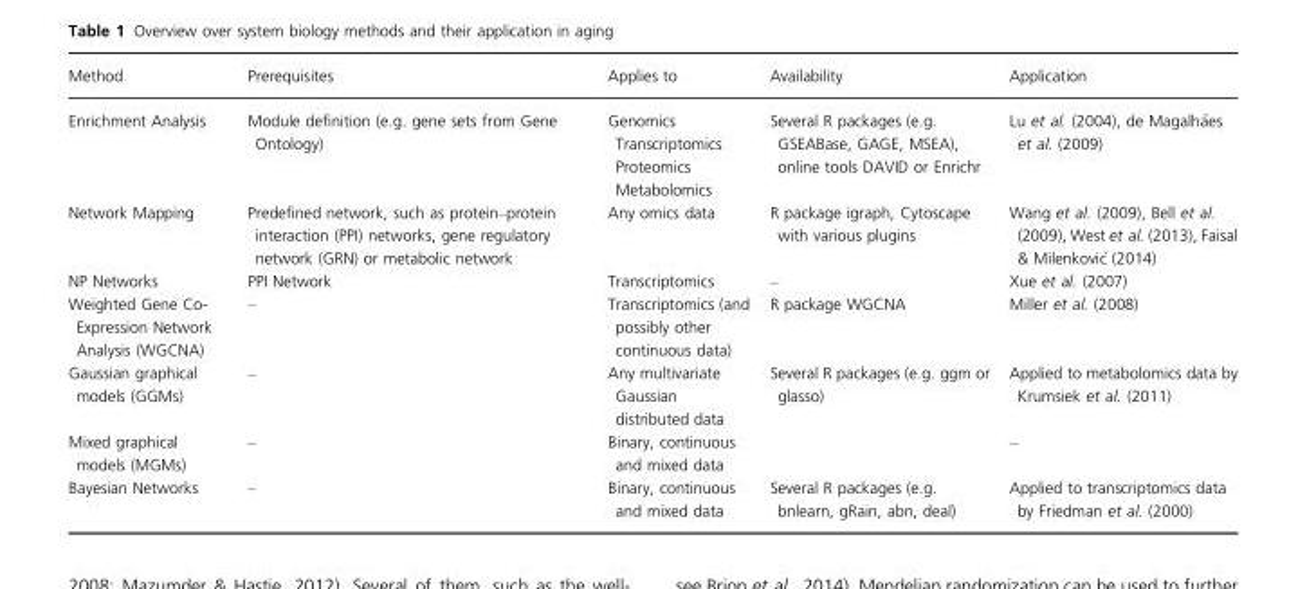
<table><thead><tr><td>Method</td><td>Prerequisites</td><td>Applies to</td><td>Availability</td><td>Application</td></tr></thead><tbody><tr><td>Enrichment Analysis</td><td>Module definition (e.g. gene sets from Gene Ontology)</td><td>Genomics Transcriptomics Proteomics Metabolomics</td><td>Several R packages (e.g. GSEABase, GAGE, MSEA), online tools DAVID or Enrichr</td><td>Lu et al. (2004), de Magalh~aes et al. (2009)</td></tr><tr><td>Network Mapping</td><td>Predefined network, such as protein–protein interaction (PPI) networks, gene regulatory network (GRN) or metabolic network</td><td>Any omics data</td><td>R package igraph, Cytoscape with various plugins</td><td>Wang et al. (2009), Bell et al. (2009), West et al. (2013), Faisal &amp; Milenkovi�c (2014)</td></tr><tr><td>NP Networks</td><td>PPI Network</td><td>Transcriptomics</td><td>–</td><td>Xue et al. (2007)</td></tr><tr><td>Weighted Gene Co- Expression Network Analysis (WGCNA)</td><td>–</td><td>Transcriptomics (and possibly other continuous data)</td><td>R package WGCNA</td><td>Miller et al. (2008)</td></tr><tr><td>Gaussian graphical models (GGMs)</td><td>–</td><td>Any multivariate Gaussian distributed data</td><td>Several R packages (e.g. ggm or glasso)</td><td>Applied to metabolomics data by Krumsiek et al. (2011)</td></tr><tr><td>Mixed graphical models (MGMs)</td><td>–</td><td>Binary, continuous and mixed data</td><td></td><td>–</td></tr><tr><td>Bayesian Networks</td><td>–</td><td>Binary, continuous and mixed data</td><td>Several R packages (e.g. bnlearn, gRain, abn, deal)</td><td>Applied to transcriptomics data by Friedman et al. (2000)</td></tr></tbody></table>